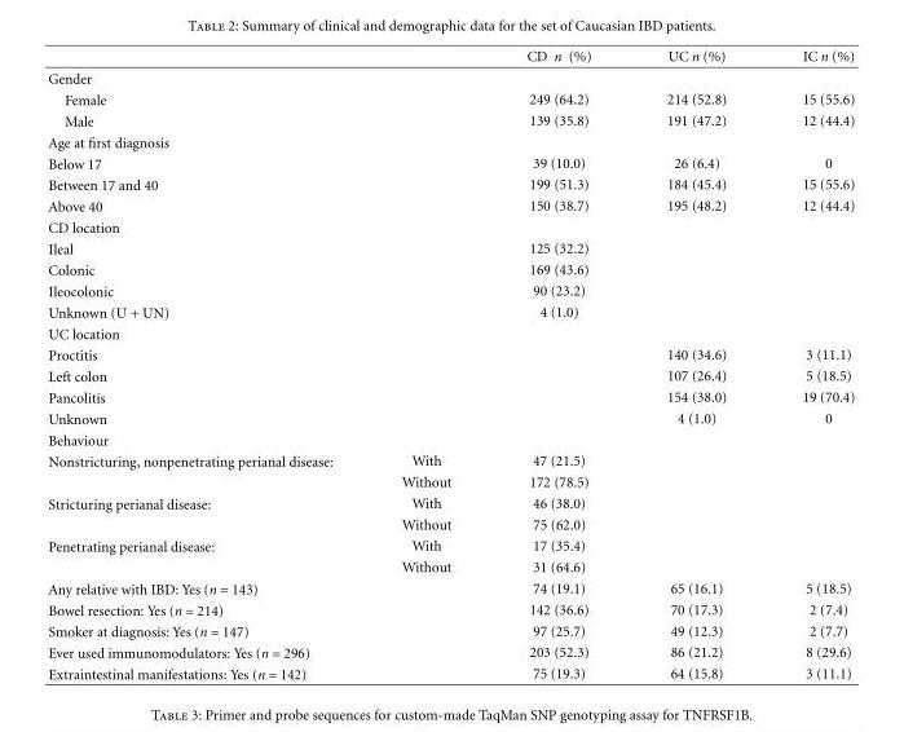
<table><thead><tr><td></td><td></td><td>CD n (%)</td><td>UC n (%)</td><td>IC n (%)</td></tr></thead><tbody><tr><td colspan="5">Gender</td></tr><tr><td>Female</td><td></td><td>249 (64.2)</td><td>214 (52.8)</td><td>15 (55.6)</td></tr><tr><td>Male</td><td></td><td>139 (35.8)</td><td>191 (47.2)</td><td>12 (44.4)</td></tr><tr><td colspan="5">Age at first diagnosis</td></tr><tr><td>Below 17</td><td></td><td>39 (10.0)</td><td>26 (6.4)</td><td>0</td></tr><tr><td>Between 17 and 40</td><td></td><td>199 (51.3)</td><td>184 (45.4)</td><td>15 (55.6)</td></tr><tr><td>Above 40</td><td></td><td>150 (38.7)</td><td>195 (48.2)</td><td>12 (44.4)</td></tr><tr><td colspan="5">CD location</td></tr><tr><td>Ileal</td><td></td><td>125 (32.2)</td><td></td><td></td></tr><tr><td>Colonic</td><td></td><td>169 (43.6)</td><td></td><td></td></tr><tr><td>Ileocolonic</td><td></td><td>90 (23.2)</td><td></td><td></td></tr><tr><td>Unknown (U + UN)</td><td></td><td>4 (1.0)</td><td></td><td></td></tr><tr><td colspan="5">UC location</td></tr><tr><td>Proctitis</td><td></td><td></td><td>140 (34.6)</td><td>3 (11.1)</td></tr><tr><td>Left colon</td><td></td><td></td><td>107 (26.4)</td><td>5 (18.5)</td></tr><tr><td>Pancolitis</td><td></td><td></td><td>154 (38.0)</td><td>19 (70.4)</td></tr><tr><td>Unknown</td><td></td><td></td><td>4 (1.0)</td><td>0</td></tr><tr><td colspan="5">Behaviour</td></tr><tr><td rowspan="2">Nonstricturing, nonpenetrating perianal disease:</td><td>With</td><td>47 (21.5)</td><td></td><td></td></tr><tr><td>Without</td><td>172 (78.5)</td><td></td><td></td></tr><tr><td rowspan="2">Stricturing perianal disease:</td><td>With</td><td>46 (38.0)</td><td></td><td></td></tr><tr><td>Without</td><td>75 (62.0)</td><td></td><td></td></tr><tr><td rowspan="2">Penetrating perianal disease:</td><td>With</td><td>17 (35.4)</td><td></td><td></td></tr><tr><td>Without</td><td>31 (64.6)</td><td></td><td></td></tr><tr><td>Any relative with IBD: Yes (n = 143)</td><td></td><td>74 (19.1)</td><td>65 (16.1)</td><td>5 (18.5)</td></tr><tr><td>Bowel resection: Yes (n = 214)</td><td></td><td>142 (36.6)</td><td>70 (17.3)</td><td>2 (7.4)</td></tr><tr><td>Smoker at diagnosis: Yes (n = 147)</td><td></td><td>97 (25.7)</td><td>49 (12.3)</td><td>2 (7.7)</td></tr><tr><td>Ever used immunomodulators: Yes (n = 296)</td><td></td><td>203 (52.3)</td><td>86 (21.2)</td><td>8 (29.6)</td></tr><tr><td>Extraintestinal manifestations: Yes (n = 142)</td><td></td><td>75 (19.3)</td><td>64 (15.8)</td><td>3 (11.1)</td></tr></tbody></table>